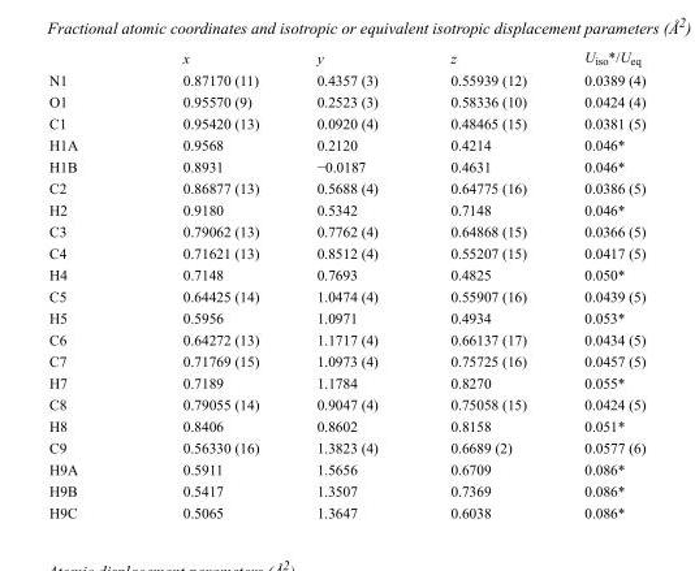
<table><thead><tr><td></td><td>x</td><td>y</td><td>z</td><td>U<sub>iso</sub>*/U<sub>eq</sub></td></tr></thead><tbody><tr><td>N1</td><td>0.87170 (11)</td><td>0.4357 (3)</td><td>0.55939 (12)</td><td>0.0389 (4)</td></tr><tr><td>O1</td><td>0.95570 (9)</td><td>0.2523 (3)</td><td>0.58336 (10)</td><td>0.0424 (4)</td></tr><tr><td>C1</td><td>0.95420 (13)</td><td>0.0920 (4)</td><td>0.48465 (15)</td><td>0.0381 (5)</td></tr><tr><td>H1A</td><td>0.9568</td><td>0.2120</td><td>0.4214</td><td>0.046*</td></tr><tr><td>H1B</td><td>0.8931</td><td>−0.0187</td><td>0.4631</td><td>0.046*</td></tr><tr><td>C2</td><td>0.86877 (13)</td><td>0.5688 (4)</td><td>0.64775 (16)</td><td>0.0386 (5)</td></tr><tr><td>H2</td><td>0.9180</td><td>0.5342</td><td>0.7148</td><td>0.046*</td></tr><tr><td>C3</td><td>0.79062 (13)</td><td>0.7762 (4)</td><td>0.64868 (15)</td><td>0.0366 (5)</td></tr><tr><td>C4</td><td>0.71621 (13)</td><td>0.8512 (4)</td><td>0.55207 (15)</td><td>0.0417 (5)</td></tr><tr><td>H4</td><td>0.7148</td><td>0.7693</td><td>0.4825</td><td>0.050*</td></tr><tr><td>C5</td><td>0.64425 (14)</td><td>1.0474 (4)</td><td>0.55907 (16)</td><td>0.0439 (5)</td></tr><tr><td>H5</td><td>0.5956</td><td>1.0971</td><td>0.4934</td><td>0.053*</td></tr><tr><td>C6</td><td>0.64272 (13)</td><td>1.1717 (4)</td><td>0.66137 (17)</td><td>0.0434 (5)</td></tr><tr><td>C7</td><td>0.71769 (15)</td><td>1.0973 (4)</td><td>0.75725 (16)</td><td>0.0457 (5)</td></tr><tr><td>H7</td><td>0.7189</td><td>1.1784</td><td>0.8270</td><td>0.055*</td></tr><tr><td>C8</td><td>0.79055 (14)</td><td>0.9047 (4)</td><td>0.75058 (15)</td><td>0.0424 (5)</td></tr><tr><td>H8</td><td>0.8406</td><td>0.8602</td><td>0.8158</td><td>0.051*</td></tr><tr><td>C9</td><td>0.56330 (16)</td><td>1.3823 (4)</td><td>0.6689 (2)</td><td>0.0577 (6)</td></tr><tr><td>H9A</td><td>0.5911</td><td>1.5656</td><td>0.6709</td><td>0.086*</td></tr><tr><td>H9B</td><td>0.5417</td><td>1.3507</td><td>0.7369</td><td>0.086*</td></tr><tr><td>H9C</td><td>0.5065</td><td>1.3647</td><td>0.6038</td><td>0.086*</td></tr></tbody></table>